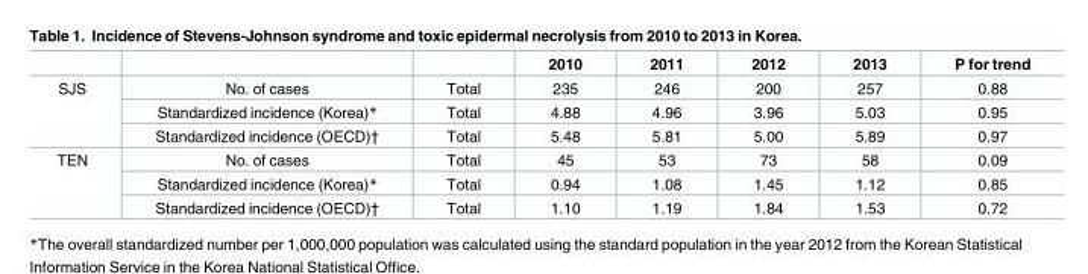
<table><thead><tr><td></td><td></td><td></td><td>2010</td><td>2011</td><td>2012</td><td>2013</td><td>P for trend</td></tr></thead><tbody><tr><td rowspan="3">SJS</td><td>No. of cases</td><td>Total</td><td>235</td><td>246</td><td>200</td><td>257</td><td>0.88</td></tr><tr><td>Standardized incidence (Korea)*</td><td>Total</td><td>4.88</td><td>4.96</td><td>3.96</td><td>5.03</td><td>0.95</td></tr><tr><td>Standardized incidence (OECD)†</td><td>Total</td><td>5.48</td><td>5.81</td><td>5.00</td><td>5.89</td><td>0.97</td></tr><tr><td rowspan="3">TEN</td><td>No. of cases</td><td>Total</td><td>45</td><td>53</td><td>73</td><td>58</td><td>0.09</td></tr><tr><td>Standardized incidence (Korea)*</td><td>Total</td><td>0.94</td><td>1.08</td><td>1.45</td><td>1.12</td><td>0.85</td></tr><tr><td>Standardized incidence (OECD)†</td><td>Total</td><td>1.10</td><td>1.19</td><td>1.84</td><td>1.53</td><td>0.72</td></tr></tbody></table>